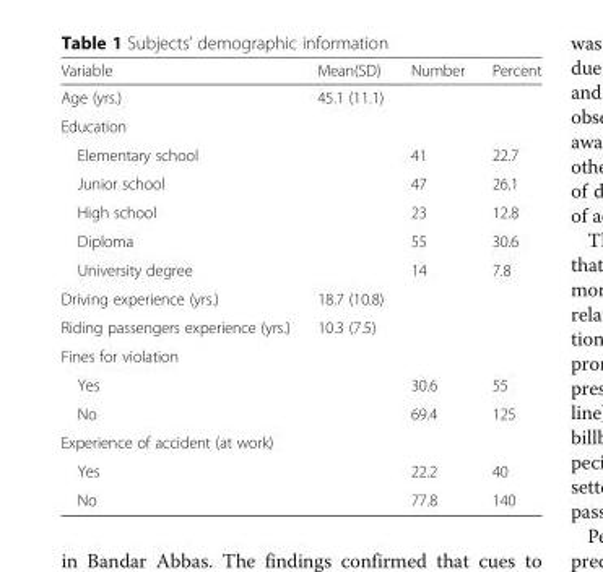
<table><thead><tr><td>Variable</td><td>Mean(SD)</td><td>Number</td><td>Percent</td></tr></thead><tbody><tr><td>Age (yrs.)</td><td>45.1 (11.1)</td><td></td><td></td></tr><tr><td colspan="4">Education</td></tr><tr><td>Elementary school</td><td></td><td>41</td><td>22.7</td></tr><tr><td>Junior school</td><td></td><td>47</td><td>26.1</td></tr><tr><td>High school</td><td></td><td>23</td><td>12.8</td></tr><tr><td>Diploma</td><td></td><td>55</td><td>30.6</td></tr><tr><td>University degree</td><td></td><td>14</td><td>7.8</td></tr><tr><td>Driving experience (yrs.)</td><td>18.7 (10.8)</td><td></td><td></td></tr><tr><td>Riding passengers experience (yrs.)</td><td>10.3 (7.5)</td><td></td><td></td></tr><tr><td colspan="4">Fines for violation</td></tr><tr><td>Yes</td><td></td><td>30.6</td><td>55</td></tr><tr><td>No</td><td></td><td>69.4</td><td>125</td></tr><tr><td colspan="4">Experience of accident (at work)</td></tr><tr><td>Yes</td><td></td><td>22.2</td><td>40</td></tr><tr><td>No</td><td></td><td>77.8</td><td>140</td></tr></tbody></table>